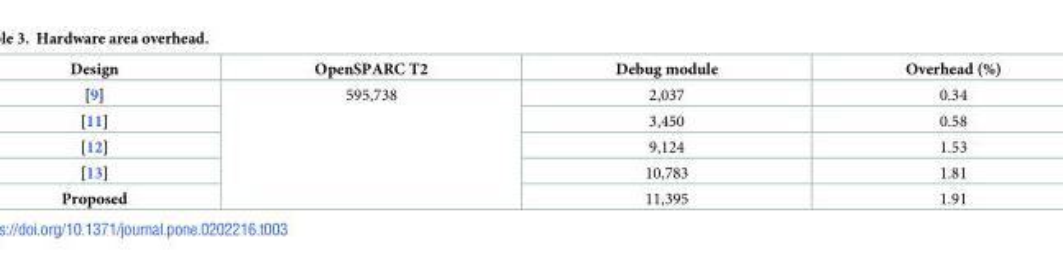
<table><thead><tr><td>Design</td><td>OpenSPARC T2</td><td>Debug module</td><td>Overhead (%)</td></tr></thead><tbody><tr><td>[9]</td><td rowspan="5">595,738</td><td>2,037</td><td>0.34</td></tr><tr><td>[11]</td><td>3,450</td><td>0.58</td></tr><tr><td>[12]</td><td>9,124</td><td>1.53</td></tr><tr><td>[13]</td><td>10,783</td><td>1.81</td></tr><tr><td>Proposed</td><td>11,395</td><td>1.91</td></tr></tbody></table>